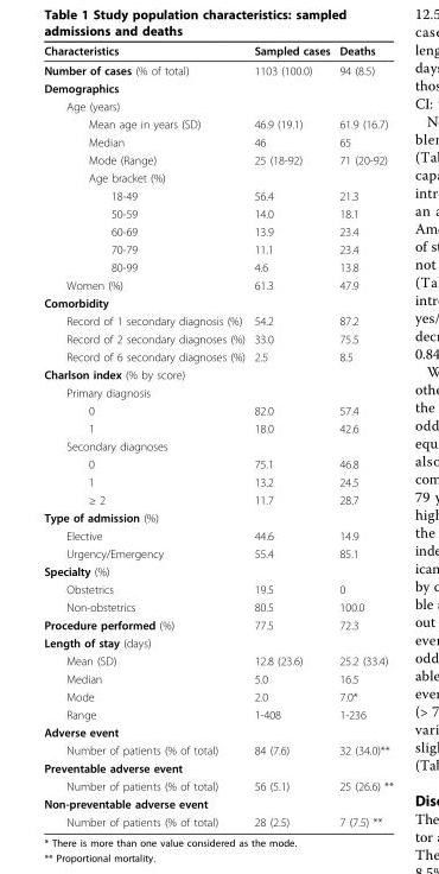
<table><thead><tr><td>Characteristics</td><td>Sampled cases</td><td>Deaths</td></tr></thead><tbody><tr><td>Number of cases (% of total)</td><td>1103 (100.0)</td><td>94 (8.5)</td></tr><tr><td colspan="3">Demographics</td></tr><tr><td colspan="3">Age (years)</td></tr><tr><td>Mean age in years (SD)</td><td>46.9 (19.1)</td><td>61.9 (16.7)</td></tr><tr><td>Median</td><td>46</td><td>65</td></tr><tr><td>Mode (Range)</td><td>25 (18-92)</td><td>71 (20-92)</td></tr><tr><td colspan="3">Age bracket (%)</td></tr><tr><td>18-49</td><td>56.4</td><td>21.3</td></tr><tr><td>50-59</td><td>14.0</td><td>18.1</td></tr><tr><td>60-69</td><td>13.9</td><td>23.4</td></tr><tr><td>70-79</td><td>11.1</td><td>23.4</td></tr><tr><td>80-99</td><td>4.6</td><td>13.8</td></tr><tr><td>Women (%)</td><td>61.3</td><td>47.9</td></tr><tr><td colspan="3">Comorbidity</td></tr><tr><td>Record of 1 secondary diagnosis (%)</td><td>54.2</td><td>87.2</td></tr><tr><td>Record of 2 secondary diagnoses (%)</td><td>33.0</td><td>75.5</td></tr><tr><td>Record of 6 secondary diagnoses (%)</td><td>2.5</td><td>8.5</td></tr><tr><td colspan="3">Charlson index (% by score)</td></tr><tr><td colspan="3">Primary diagnosis</td></tr><tr><td>0</td><td>82.0</td><td>57.4</td></tr><tr><td>1</td><td>18.0</td><td>42.6</td></tr><tr><td colspan="3">Secondary diagnoses</td></tr><tr><td>0</td><td>75.1</td><td>46.8</td></tr><tr><td>1</td><td>13.2</td><td>24.5</td></tr><tr><td>≥ 2</td><td>11.7</td><td>28.7</td></tr><tr><td colspan="3">Type of admission (%)</td></tr><tr><td>Elective</td><td>44.6</td><td>14.9</td></tr><tr><td>Urgency/Emergency</td><td>55.4</td><td>85.1</td></tr><tr><td colspan="3">Specialty (%)</td></tr><tr><td>Obstetrics</td><td>19.5</td><td>0</td></tr><tr><td>Non-obstetrics</td><td>80.5</td><td>100.0</td></tr><tr><td>Procedure performed (%)</td><td>77.5</td><td>72.3</td></tr><tr><td colspan="3">Length of stay (days)</td></tr><tr><td>Mean (SD)</td><td>12.8 (23.6)</td><td>25.2 (33.4)</td></tr><tr><td>Median</td><td>5.0</td><td>16.5</td></tr><tr><td>Mode</td><td>2.0</td><td>7.0*</td></tr><tr><td>Range</td><td>1-408</td><td>1-236</td></tr><tr><td colspan="3">Adverse event</td></tr><tr><td>Number of patients (% of total)</td><td>84 (7.6)</td><td>32 (34.0)**</td></tr><tr><td colspan="3">Preventable adverse event</td></tr><tr><td>Number of patients (% of total)</td><td>56 (5.1)</td><td>25 (26.6) **</td></tr><tr><td colspan="3">Non-preventable adverse event</td></tr><tr><td>Number of patients (% of total)</td><td>28 (2.5)</td><td>7 (7.5) **</td></tr></tbody></table>